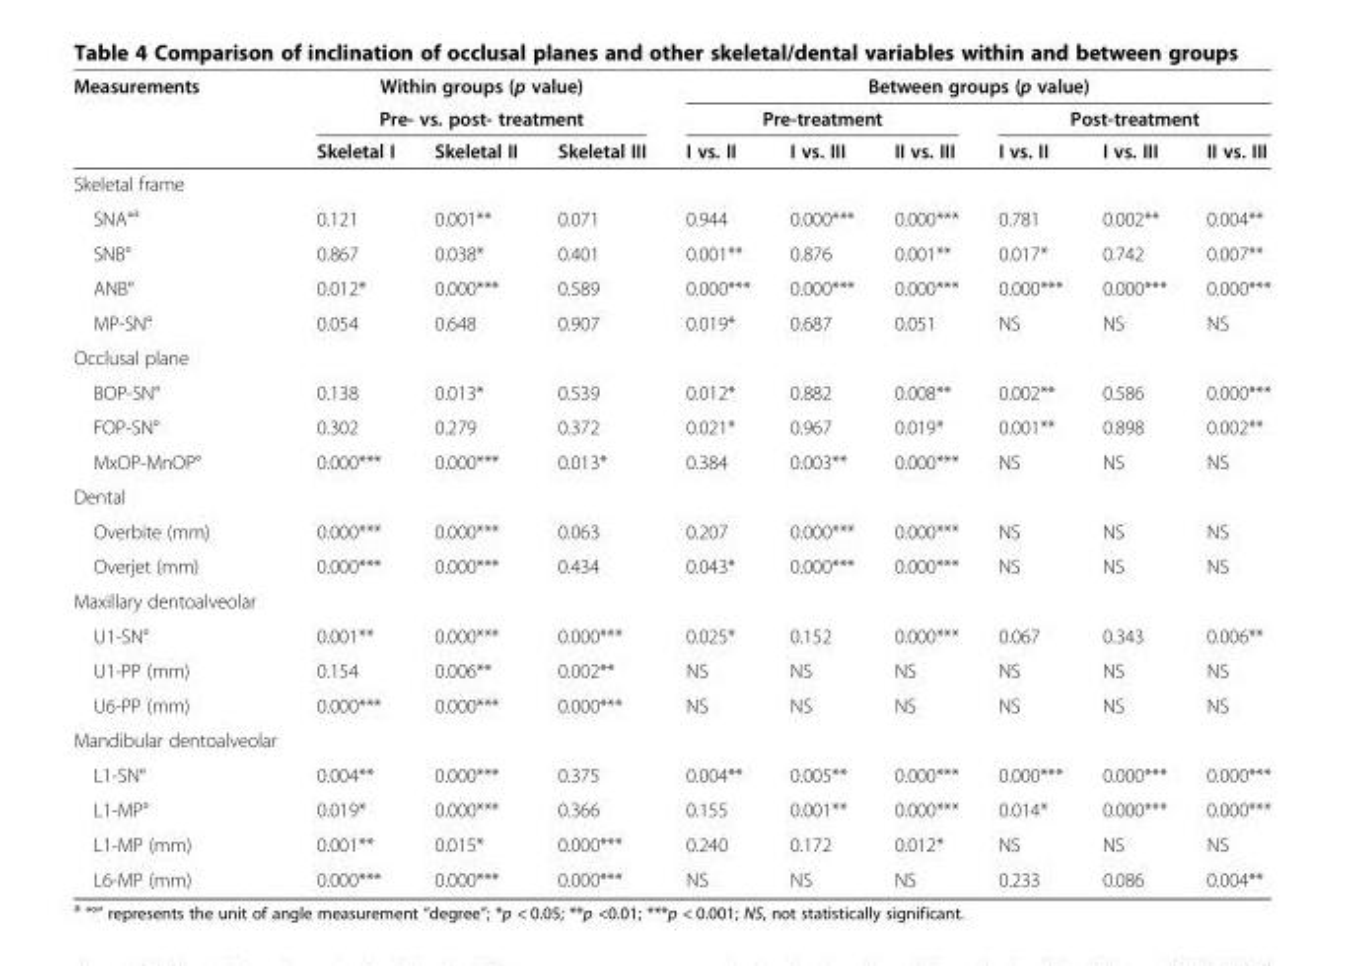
<table><thead><tr><td rowspan="3">Measurements</td><td rowspan="2" colspan="3">Within groups (p value) Pre- vs. post- treatment</td><td colspan="6">Between groups (p value)</td></tr><tr><td colspan="3">Pre-treatment</td><td colspan="3">Post-treatment</td></tr><tr><td>Skeletal I</td><td>Skeletal II</td><td>Skeletal III</td><td>I vs. II</td><td>I vs. III</td><td>II vs. III</td><td>I vs. II</td><td>I vs. III</td><td>II vs. III</td></tr></thead><tbody><tr><td colspan="10">Skeletal frame</td></tr><tr><td>SNA°<sup>a</sup></td><td>0.121</td><td>0.001**</td><td>0.071</td><td>0.944</td><td>0.000***</td><td>0.000***</td><td>0.781</td><td>0.002**</td><td>0.004**</td></tr><tr><td>SNB°</td><td>0.867</td><td>0.038*</td><td>0.401</td><td>0.001**</td><td>0.876</td><td>0.001**</td><td>0.017*</td><td>0.742</td><td>0.007**</td></tr><tr><td>ANB°</td><td>0.012*</td><td>0.000***</td><td>0.589</td><td>0.000***</td><td>0.000***</td><td>0.000***</td><td>0.000***</td><td>0.000***</td><td>0.000***</td></tr><tr><td>MP-SN°</td><td>0.054</td><td>0.648</td><td>0.907</td><td>0.019*</td><td>0.687</td><td>0.051</td><td>NS</td><td>NS</td><td>NS</td></tr><tr><td colspan="10">Occlusal plane</td></tr><tr><td>BOP-SN°</td><td>0.138</td><td>0.013*</td><td>0.539</td><td>0.012*</td><td>0.882</td><td>0.008**</td><td>0.002**</td><td>0.586</td><td>0.000***</td></tr><tr><td>FOP-SN°</td><td>0.302</td><td>0.279</td><td>0.372</td><td>0.021*</td><td>0.967</td><td>0.019*</td><td>0.001**</td><td>0.898</td><td>0.002**</td></tr><tr><td>MxOP-MnOP°</td><td>0.000***</td><td>0.000***</td><td>0.013*</td><td>0.384</td><td>0.003**</td><td>0.000***</td><td>NS</td><td>NS</td><td>NS</td></tr><tr><td colspan="10">Dental</td></tr><tr><td>Overbite (mm)</td><td>0.000***</td><td>0.000***</td><td>0.063</td><td>0.207</td><td>0.000***</td><td>0.000***</td><td>NS</td><td>NS</td><td>NS</td></tr><tr><td>Overjet (mm)</td><td>0.000***</td><td>0.000***</td><td>0.434</td><td>0.043*</td><td>0.000***</td><td>0.000***</td><td>NS</td><td>NS</td><td>NS</td></tr><tr><td colspan="10">Maxillary dentoalveolar</td></tr><tr><td>U1-SN°</td><td>0.001**</td><td>0.000***</td><td>0.000***</td><td>0.025*</td><td>0.152</td><td>0.000***</td><td>0.067</td><td>0.343</td><td>0.006**</td></tr><tr><td>U1-PP (mm)</td><td>0.154</td><td>0.006**</td><td>0.002**</td><td>NS</td><td>NS</td><td>NS</td><td>NS</td><td>NS</td><td>NS</td></tr><tr><td>U6-PP (mm)</td><td>0.000***</td><td>0.000***</td><td>0.000***</td><td>NS</td><td>NS</td><td>NS</td><td>NS</td><td>NS</td><td>NS</td></tr><tr><td colspan="10">Mandibular dentoalveolar</td></tr><tr><td>L1-SN°</td><td>0.004**</td><td>0.000***</td><td>0.375</td><td>0.004**</td><td>0.005**</td><td>0.000***</td><td>0.000***</td><td>0.000***</td><td>0.000***</td></tr><tr><td>L1-MP°</td><td>0.019*</td><td>0.000***</td><td>0.366</td><td>0.155</td><td>0.001**</td><td>0.000***</td><td>0.014*</td><td>0.000***</td><td>0.000***</td></tr><tr><td>L1-MP (mm)</td><td>0.001**</td><td>0.015*</td><td>0.000***</td><td>0.240</td><td>0.172</td><td>0.012*</td><td>NS</td><td>NS</td><td>NS</td></tr><tr><td>L6-MP (mm)</td><td>0.000***</td><td>0.000***</td><td>0.000***</td><td>NS</td><td>NS</td><td>NS</td><td>0.233</td><td>0.086</td><td>0.004**</td></tr></tbody></table>